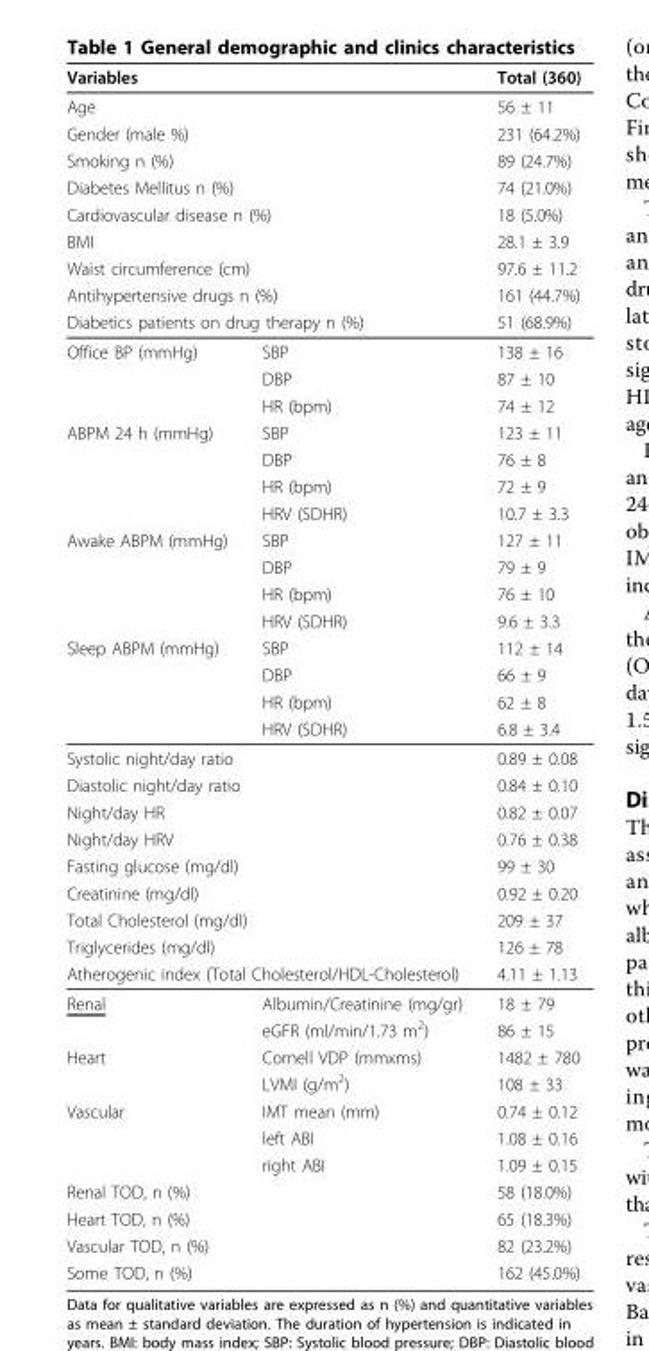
<table><thead><tr><td colspan="2">Variables</td><td>Total (360)</td></tr></thead><tbody><tr><td colspan="2">Age</td><td>56 ± 11</td></tr><tr><td colspan="2">Gender (male %)</td><td>231 (64.2%)</td></tr><tr><td colspan="2">Smoking n (%)</td><td>89 (24.7%)</td></tr><tr><td colspan="2">Diabetes Mellitus n (%)</td><td>74 (21.0%)</td></tr><tr><td colspan="2">Cardiovascular disease n (%)</td><td>18 (5.0%)</td></tr><tr><td colspan="2">BMI</td><td>28.1 ± 3.9</td></tr><tr><td colspan="2">Waist circumference (cm)</td><td>97.6 ± 11.2</td></tr><tr><td colspan="2">Antihypertensive drugs n (%)</td><td>161 (44.7%)</td></tr><tr><td colspan="2">Diabetics patients on drug therapy n (%)</td><td>51 (68.9%)</td></tr><tr><td rowspan="3">Office BP (mmHg)</td><td>SBP</td><td>138 ± 16</td></tr><tr><td>DBP</td><td>87 ± 10</td></tr><tr><td>HR (bpm)</td><td>74 ± 12</td></tr><tr><td rowspan="4">ABPM 24 h (mmHg)</td><td>SBP</td><td>123 ± 11</td></tr><tr><td>DBP</td><td>76 ± 8</td></tr><tr><td>HR (bpm)</td><td>72 ± 9</td></tr><tr><td>HRV (SDHR)</td><td>10.7 ± 3.3</td></tr><tr><td rowspan="4">Awake ABPM (mmHg)</td><td>SBP</td><td>127 ± 11</td></tr><tr><td>DBP</td><td>79 ± 9</td></tr><tr><td>HR (bpm)</td><td>76 ± 10</td></tr><tr><td>HRV (SDHR)</td><td>9.6 ± 3.3</td></tr><tr><td rowspan="4">Sleep ABPM (mmHg)</td><td>SBP</td><td>112 ± 14</td></tr><tr><td>DBP</td><td>66 ± 9</td></tr><tr><td>HR (bpm)</td><td>62 ± 8</td></tr><tr><td>HRV (SDHR)</td><td>6.8 ± 3.4</td></tr><tr><td colspan="2">Systolic night/day ratio</td><td>0.89 ± 0.08</td></tr><tr><td colspan="2">Diastolic night/day ratio</td><td>0.84 ± 0.10</td></tr><tr><td colspan="2">Night/day HR</td><td>0.82 ± 0.07</td></tr><tr><td colspan="2">Night/day HRV</td><td>0.76 ± 0.38</td></tr><tr><td colspan="2">Fasting glucose (mg/dl)</td><td>99 ± 30</td></tr><tr><td colspan="2">Creatinine (mg/dl)</td><td>0.92 ± 0.20</td></tr><tr><td colspan="2">Total Cholesterol (mg/dl)</td><td>209 ± 37</td></tr><tr><td colspan="2">Triglycerides (mg/dl)</td><td>126 ± 78</td></tr><tr><td colspan="2">Atherogenic index (Total Cholesterol/HDL-Cholesterol)</td><td>4.11 ± 1.13</td></tr><tr><td rowspan="2">Renal</td><td>Albumin/Creatinine (mg/gr)</td><td>18 ± 79</td></tr><tr><td>eGFR (ml/min/1.73 m<sup>2</sup>)</td><td>86 ± 15</td></tr><tr><td rowspan="2">Heart</td><td>Cornell VDP (mmxms)</td><td>1482 ± 780</td></tr><tr><td>LVMI (g/m<sup>2</sup>)</td><td>108 ± 33</td></tr><tr><td rowspan="3">Vascular</td><td>IMT mean (mm)</td><td>0.74 ± 0.12</td></tr><tr><td>left ABI</td><td>1.08 ± 0.16</td></tr><tr><td>right ABI</td><td>1.09 ± 0.15</td></tr><tr><td colspan="2">Renal TOD, n (%)</td><td>58 (18.0%)</td></tr><tr><td colspan="2">Heart TOD, n (%)</td><td>65 (18.3%)</td></tr><tr><td colspan="2">Vascular TOD, n (%)</td><td>82 (23.2%)</td></tr><tr><td colspan="2">Some TOD, n (%)</td><td>162 (45.0%)</td></tr></tbody></table>